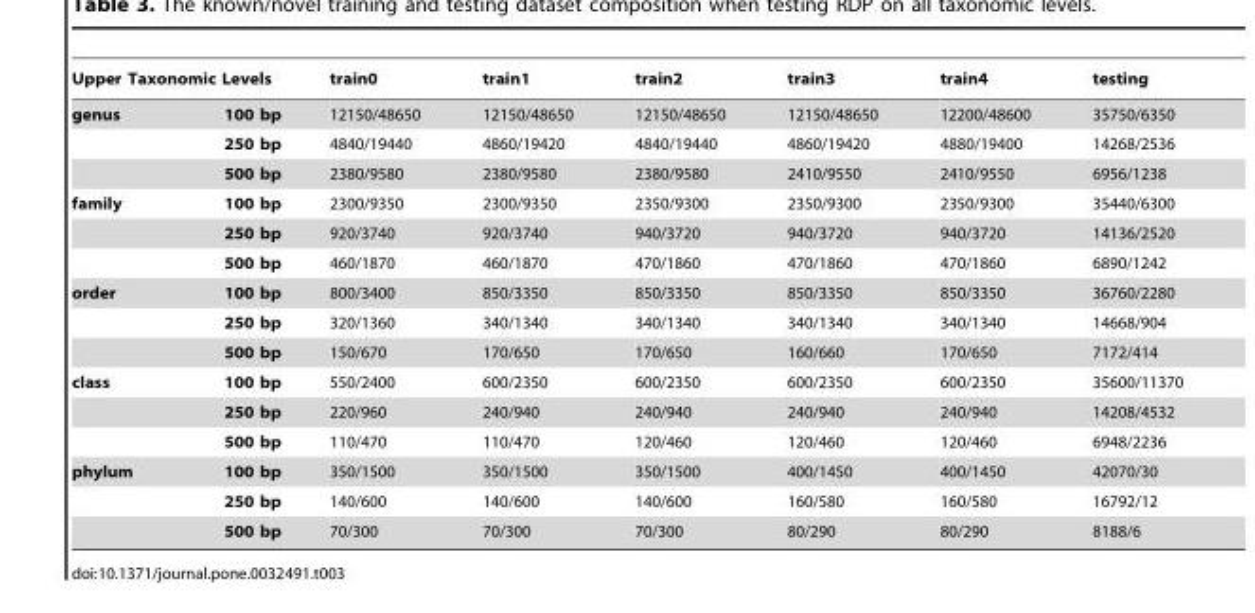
<table><thead><tr><td colspan="2">Upper Taxonomic Levels</td><td rowspan="2">train0 12150/48650</td><td rowspan="2">train1 12150/48650</td><td rowspan="2">train2 12150/48650</td><td rowspan="2">train3 12150/48650</td><td rowspan="2">train4 12200/48600</td><td rowspan="2">testing 35750/6350</td></tr><tr><td>genus</td><td>100 bp</td></tr></thead><tbody><tr><td></td><td>250 bp</td><td>4840/19440</td><td>4860/19420</td><td>4840/19440</td><td>4860/19420</td><td>4880/19400</td><td>14268/2536</td></tr><tr><td></td><td>500 bp</td><td>2380/9580</td><td>2380/9580</td><td>2380/9580</td><td>2410/9550</td><td>2410/9550</td><td>6956/1238</td></tr><tr><td rowspan="3">family</td><td>100 bp</td><td>2300/9350</td><td>2300/9350</td><td>2350/9300</td><td>2350/9300</td><td>2350/9300</td><td>35440/6300</td></tr><tr><td>250 bp</td><td>920/3740</td><td>920/3740</td><td>940/3720</td><td>940/3720</td><td>940/3720</td><td>14136/2520</td></tr><tr><td>500 bp</td><td>460/1870</td><td>460/1870</td><td>470/1860</td><td>470/1860</td><td>470/1860</td><td>6890/1242</td></tr><tr><td rowspan="3">order</td><td>100 bp</td><td>800/3400</td><td>850/3350</td><td>850/3350</td><td>850/3350</td><td>850/3350</td><td>36760/2280</td></tr><tr><td>250 bp</td><td>320/1360</td><td>340/1340</td><td>340/1340</td><td>340/1340</td><td>340/1340</td><td>14668/904</td></tr><tr><td>500 bp</td><td>150/670</td><td>170/650</td><td>170/650</td><td>160/660</td><td>170/650</td><td>7172/414</td></tr><tr><td rowspan="3">class</td><td>100 bp</td><td>550/2400</td><td>600/2350</td><td>600/2350</td><td>600/2350</td><td>600/2350</td><td>35600/11370</td></tr><tr><td>250 bp</td><td>220/960</td><td>240/940</td><td>240/940</td><td>240/940</td><td>240/940</td><td>14208/4532</td></tr><tr><td>500 bp</td><td>110/470</td><td>110/470</td><td>120/460</td><td>120/460</td><td>120/460</td><td>6948/2236</td></tr><tr><td rowspan="3">phylum</td><td>100 bp</td><td>350/1500</td><td>350/1500</td><td>350/1500</td><td>400/1450</td><td>400/1450</td><td>42070/30</td></tr><tr><td>250 bp</td><td>140/600</td><td>140/600</td><td>140/600</td><td>160/580</td><td>160/580</td><td>16792/12</td></tr><tr><td>500 bp</td><td>70/300</td><td>70/300</td><td>70/300</td><td>80/290</td><td>80/290</td><td>8188/6</td></tr></tbody></table>